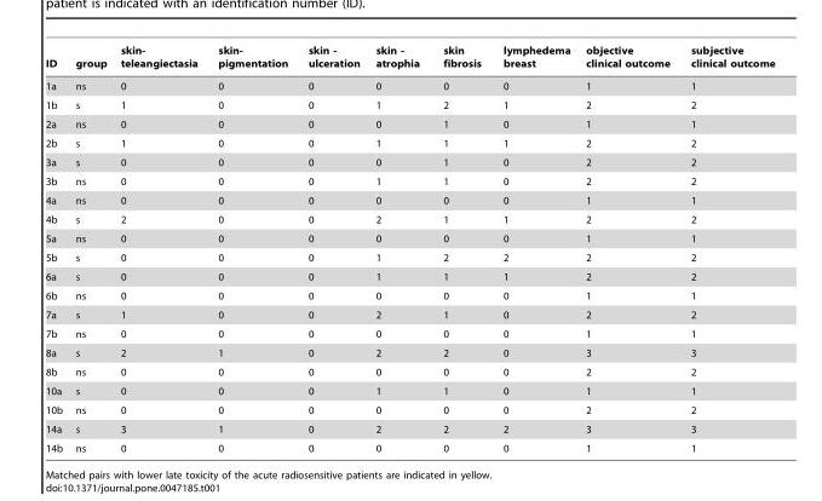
<table><thead><tr><td>ID</td><td>group</td><td>skin- teleangiectasia</td><td>skin- pigmentation</td><td>skin - ulceration</td><td>skin - atrophia</td><td>skin fibrosis</td><td>lymphedema breast</td><td>objective clinical outcome</td><td>subjective clinical outcome</td></tr></thead><tbody><tr><td>1a</td><td>ns</td><td>0</td><td>0</td><td>0</td><td>0</td><td>0</td><td>0</td><td>1</td><td>1</td></tr><tr><td>1b</td><td>s</td><td>1</td><td>0</td><td>0</td><td>1</td><td>2</td><td>1</td><td>2</td><td>2</td></tr><tr><td>2a</td><td>ns</td><td>0</td><td>0</td><td>0</td><td>0</td><td>1</td><td>0</td><td>1</td><td>1</td></tr><tr><td>2b</td><td>s</td><td>1</td><td>0</td><td>0</td><td>1</td><td>1</td><td>1</td><td>2</td><td>2</td></tr><tr><td>3a</td><td>s</td><td>0</td><td>0</td><td>0</td><td>0</td><td>1</td><td>0</td><td>2</td><td>2</td></tr><tr><td>3b</td><td>ns</td><td>0</td><td>0</td><td>0</td><td>1</td><td>1</td><td>0</td><td>2</td><td>2</td></tr><tr><td>4a</td><td>ns</td><td>0</td><td>0</td><td>0</td><td>0</td><td>0</td><td>0</td><td>1</td><td>1</td></tr><tr><td>4b</td><td>s</td><td>2</td><td>0</td><td>0</td><td>2</td><td>1</td><td>1</td><td>2</td><td>2</td></tr><tr><td>5a</td><td>ns</td><td>0</td><td>0</td><td>0</td><td>0</td><td>0</td><td>0</td><td>1</td><td>1</td></tr><tr><td>5b</td><td>s</td><td>0</td><td>0</td><td>0</td><td>1</td><td>2</td><td>2</td><td>2</td><td>2</td></tr><tr><td>6a</td><td>s</td><td>0</td><td>0</td><td>0</td><td>1</td><td>1</td><td>1</td><td>2</td><td>2</td></tr><tr><td>6b</td><td>ns</td><td>0</td><td>0</td><td>0</td><td>0</td><td>0</td><td>0</td><td>1</td><td>1</td></tr><tr><td>7a</td><td>s</td><td>1</td><td>0</td><td>0</td><td>2</td><td>1</td><td>0</td><td>2</td><td>2</td></tr><tr><td>7b</td><td>ns</td><td>0</td><td>0</td><td>0</td><td>0</td><td>0</td><td>0</td><td>1</td><td>1</td></tr><tr><td>8a</td><td>s</td><td>2</td><td>1</td><td>0</td><td>2</td><td>2</td><td>0</td><td>3</td><td>3</td></tr><tr><td>8b</td><td>ns</td><td>0</td><td>0</td><td>0</td><td>0</td><td>0</td><td>0</td><td>2</td><td>2</td></tr><tr><td>10a</td><td>s</td><td>0</td><td>0</td><td>0</td><td>1</td><td>1</td><td>0</td><td>1</td><td>1</td></tr><tr><td>10b</td><td>ns</td><td>0</td><td>0</td><td>0</td><td>0</td><td>0</td><td>0</td><td>2</td><td>2</td></tr><tr><td>14a</td><td>s</td><td>3</td><td>1</td><td>0</td><td>2</td><td>2</td><td>2</td><td>3</td><td>3</td></tr><tr><td>14b</td><td>ns</td><td>0</td><td>0</td><td>0</td><td>0</td><td>0</td><td>0</td><td>1</td><td>1</td></tr></tbody></table>